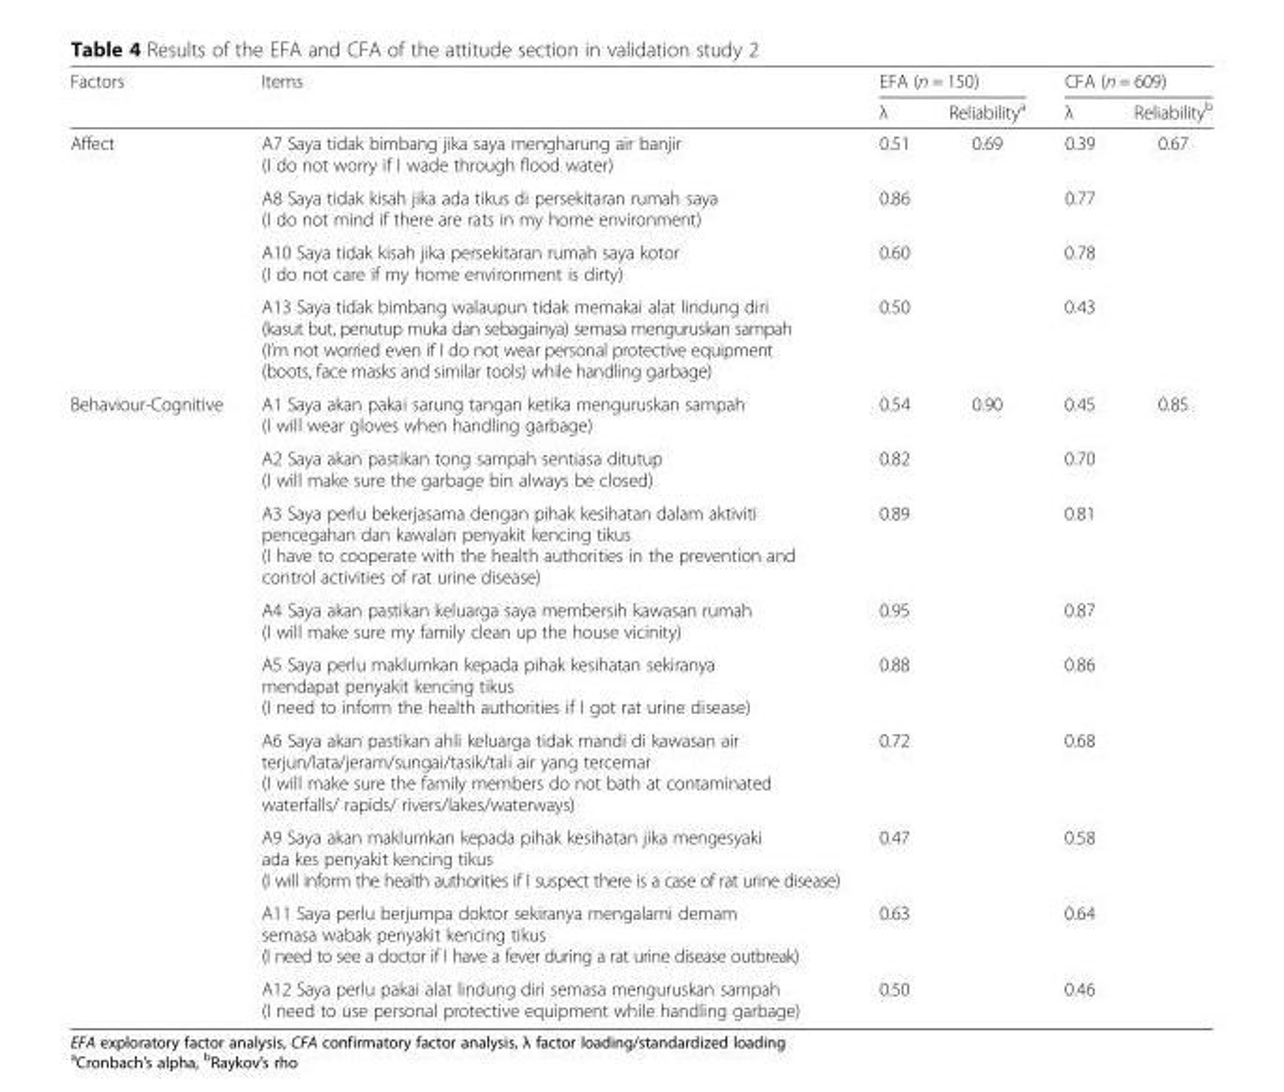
<table><thead><tr><td rowspan="2">Factors</td><td rowspan="2">Items</td><td colspan="2">EFA (n = 150)</td><td colspan="2">CFA (n = 609)</td></tr><tr><td>λ</td><td>Reliability<sup>a</sup></td><td>λ</td><td>Reliability<sup>b</sup></td></tr></thead><tbody><tr><td rowspan="4">Affect</td><td>A7 Saya tidak bimbang jika saya mengharung air banjir (I do not worry if I wade through flood water)</td><td>0.51</td><td>0.69</td><td>0.39</td><td>0.67</td></tr><tr><td>A8 Saya tidak kisah jika ada tikus di persekitaran rumah saya (I do not mind if there are rats in my home environment)</td><td>0.86</td><td></td><td>0.77</td><td></td></tr><tr><td>A10 Saya tidak kisah jika persekitaran rumah saya kotor (I do not care if my home environment is dirty)</td><td>0.60</td><td></td><td>0.78</td><td></td></tr><tr><td>A13 Saya tidak bimbang walaupun tidak memakai alat lindung diri (kasut but, penutup muka dan sebagainya) semasa menguruskan sampah (I’m not worried even if I do not wear personal protective equipment (boots, face masks and similar tools) while handling garbage)</td><td>0.50</td><td></td><td>0.43</td><td></td></tr><tr><td rowspan="9">Behaviour-Cognitive</td><td>A1 Saya akan pakai sarung tangan ketika menguruskan sampah (I will wear gloves when handling garbage)</td><td>0.54</td><td>0.90</td><td>0.45</td><td>0.85</td></tr><tr><td>A2 Saya akan pastikan tong sampah sentiasa ditutup (I will make sure the garbage bin always be closed)</td><td>0.82</td><td></td><td>0.70</td><td></td></tr><tr><td>A3 Saya perlu bekerjasama dengan pihak kesihatan dalam aktiviti pencegahan dan kawalan penyakit kencing tikus (I have to cooperate with the health authorities in the prevention and control activities of rat urine disease)</td><td>0.89</td><td></td><td>0.81</td><td></td></tr><tr><td>A4 Saya akan pastikan keluarga saya membersih kawasan rumah (I will make sure my family clean up the house vicinity)</td><td>0.95</td><td></td><td>0.87</td><td></td></tr><tr><td>A5 Saya perlu maklumkan kepada pihak kesihatan sekiranya mendapat penyakit kencing tikus (I need to inform the health authorities if I got rat urine disease)</td><td>0.88</td><td></td><td>0.86</td><td></td></tr><tr><td>A6 Saya akan pastikan ahli keluarga tidak mandi di kawasan air terjun/lata/jeram/sungai/tasik/tali air yang tercemar (I will make sure the family members do not bath at contaminated waterfalls/ rapids/ rivers/lakes/waterways)</td><td>0.72</td><td></td><td>0.68</td><td></td></tr><tr><td>A9 Saya akan maklumkan kepada pihak kesihatan jika mengesyaki ada kes penyakit kencing tikus (I will inform the health authorities if I suspect there is a case of rat urine disease)</td><td>0.47</td><td></td><td>0.58</td><td></td></tr><tr><td>A11 Saya perlu berjumpa doktor sekiranya mengalami demam semasa wabak penyakit kencing tikus (I need to see a doctor if I have a fever during a rat urine disease outbreak)</td><td>0.63</td><td></td><td>0.64</td><td></td></tr><tr><td>A12 Saya perlu pakai alat lindung diri semasa menguruskan sampah (I need to use personal protective equipment while handling garbage)</td><td>0.50</td><td></td><td>0.46</td><td></td></tr></tbody></table>